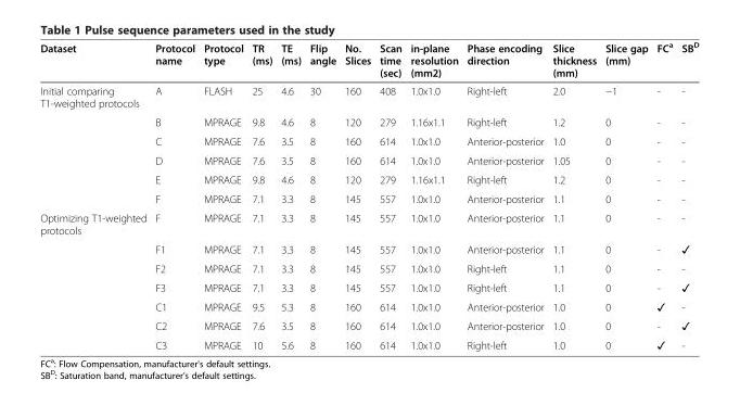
<table><thead><tr><td>Dataset</td><td>Protocol name</td><td>Protocol type</td><td>TR (ms)</td><td>TE (ms)</td><td>Flip angle</td><td>No. Slices</td><td>Scan time (sec)</td><td>in-plane resolution (mm2)</td><td>Phase encoding direction</td><td>Slice thickness (mm)</td><td>Slice gap (mm)</td><td>FC<sup>a</sup></td><td>SB<sup>D</sup></td></tr></thead><tbody><tr><td rowspan="6">Initial comparing T1-weighted protocols</td><td>A</td><td>FLASH</td><td>25</td><td>4.6</td><td>30</td><td>160</td><td>408</td><td>1.0x1.0</td><td>Right-left</td><td>2.0</td><td>−1</td><td>-</td><td>-</td></tr><tr><td>B</td><td>MPRAGE</td><td>9.8</td><td>4.6</td><td>8</td><td>120</td><td>279</td><td>1.16x1.1</td><td>Right-left</td><td>1.2</td><td>0</td><td>-</td><td>-</td></tr><tr><td>C</td><td>MPRAGE</td><td>7.6</td><td>3.5</td><td>8</td><td>160</td><td>614</td><td>1.0x1.0</td><td>Anterior-posterior</td><td>1.0</td><td>0</td><td>-</td><td>-</td></tr><tr><td>D</td><td>MPRAGE</td><td>7.6</td><td>3.5</td><td>8</td><td>160</td><td>614</td><td>1.0x1.0</td><td>Anterior-posterior</td><td>1.05</td><td>0</td><td>-</td><td>-</td></tr><tr><td>E</td><td>MPRAGE</td><td>9.8</td><td>4.6</td><td>8</td><td>120</td><td>279</td><td>1.16x1.1</td><td>Right-left</td><td>1.2</td><td>0</td><td>-</td><td>-</td></tr><tr><td>F</td><td>MPRAGE</td><td>7.1</td><td>3.3</td><td>8</td><td>145</td><td>557</td><td>1.0x1.0</td><td>Anterior-posterior</td><td>1.1</td><td>0</td><td>-</td><td>-</td></tr><tr><td rowspan="7">Optimizing T1-weighted protocols</td><td>F</td><td>MPRAGE</td><td>7.1</td><td>3.3</td><td>8</td><td>145</td><td>557</td><td>1.0x1.0</td><td>Anterior-posterior</td><td>1.1</td><td>0</td><td>-</td><td>-</td></tr><tr><td>F1</td><td>MPRAGE</td><td>7.1</td><td>3.3</td><td>8</td><td>145</td><td>557</td><td>1.0x1.0</td><td>Anterior-posterior</td><td>1.1</td><td>0</td><td>-</td><td>✓</td></tr><tr><td>F2</td><td>MPRAGE</td><td>7.1</td><td>3.3</td><td>8</td><td>145</td><td>557</td><td>1.0x1.0</td><td>Right-left</td><td>1.1</td><td>0</td><td>-</td><td>-</td></tr><tr><td>F3</td><td>MPRAGE</td><td>7.1</td><td>3.3</td><td>8</td><td>145</td><td>557</td><td>1.0x1.0</td><td>Right-left</td><td>1.1</td><td>0</td><td>-</td><td>✓</td></tr><tr><td>C1</td><td>MPRAGE</td><td>9.5</td><td>5.3</td><td>8</td><td>160</td><td>614</td><td>1.0x1.0</td><td>Anterior-posterior</td><td>1.0</td><td>0</td><td>✓</td><td>-</td></tr><tr><td>C2</td><td>MPRAGE</td><td>7.6</td><td>3.5</td><td>8</td><td>160</td><td>614</td><td>1.0x1.0</td><td>Anterior-posterior</td><td>1.0</td><td>0</td><td>-</td><td>✓</td></tr><tr><td>C3</td><td>MPRAGE</td><td>10</td><td>5.6</td><td>8</td><td>160</td><td>614</td><td>1.0x1.0</td><td>Right-left</td><td>1.0</td><td>0</td><td>✓</td><td>-</td></tr></tbody></table>